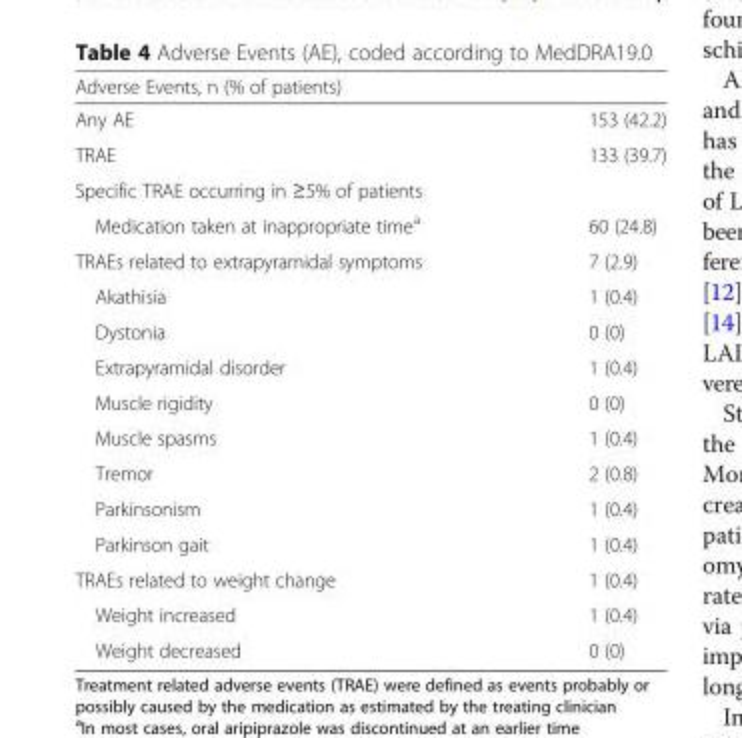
<table><thead><tr><td colspan="2">Adverse Events, n (% of patients)</td></tr><tr><td>Any AE</td><td>153 (42.2)</td></tr></thead><tbody><tr><td>TRAE</td><td>133 (39.7)</td></tr><tr><td colspan="2">Specific TRAE occurring in ≥5% of patients</td></tr><tr><td>Medication taken at inappropriate time<sup>a</sup></td><td>60 (24.8)</td></tr><tr><td>TRAEs related to extrapyramidal symptoms</td><td>7 (2.9)</td></tr><tr><td>Akathisia</td><td>1 (0.4)</td></tr><tr><td>Dystonia</td><td>0 (0)</td></tr><tr><td>Extrapyramidal disorder</td><td>1 (0.4)</td></tr><tr><td>Muscle rigidity</td><td>0 (0)</td></tr><tr><td>Muscle spasms</td><td>1 (0.4)</td></tr><tr><td>Tremor</td><td>2 (0.8)</td></tr><tr><td>Parkinsonism</td><td>1 (0.4)</td></tr><tr><td>Parkinson gait</td><td>1 (0.4)</td></tr><tr><td>TRAEs related to weight change</td><td>1 (0.4)</td></tr><tr><td>Weight increased</td><td>1 (0.4)</td></tr><tr><td>Weight decreased</td><td>0 (0)</td></tr></tbody></table>